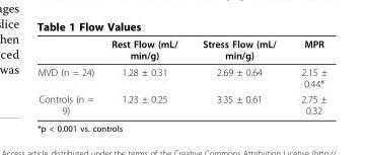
<table><thead><tr><td></td><td>Rest Flow (mL/ min/g)</td><td>Stress Flow (mL/ min/g)</td><td>MPR</td></tr></thead><tbody><tr><td>MVD (n = 24)</td><td>1.28 ± 0.31</td><td>2.69 ± 0.64</td><td>2.15 ± 0.44*</td></tr><tr><td>Controls (n = 9)</td><td>1.23 ± 0.25</td><td>3.35 ± 0.61</td><td>2.75 ± 0.32</td></tr></tbody></table>